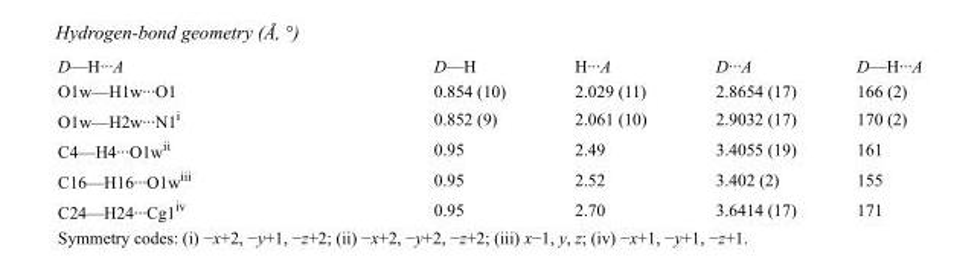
<table><tbody><tr><td>D—H···A</td><td>D—H</td><td>H···A</td><td>D···A</td><td>D—H···A</td></tr><tr><td>O1w—H1w···O1</td><td>0.854 (10)</td><td>2.029 (11)</td><td>2.8654 (17)</td><td>166 (2)</td></tr><tr><td>O1w—H2w···N1<sup>i</sup></td><td>0.852 (9)</td><td>2.061 (10)</td><td>2.9032 (17)</td><td>170 (2)</td></tr><tr><td>C4—H4···O1w<sup>ii</sup></td><td>0.95</td><td>2.49</td><td>3.4055 (19)</td><td>161</td></tr><tr><td>C16—H16···O1w<sup>iii</sup></td><td>0.95</td><td>2.52</td><td>3.402 (2)</td><td>155</td></tr><tr><td>C24—H24···Cg1<sup>iv</sup></td><td>0.95</td><td>2.70</td><td>3.6414 (17)</td><td>171</td></tr></tbody></table>